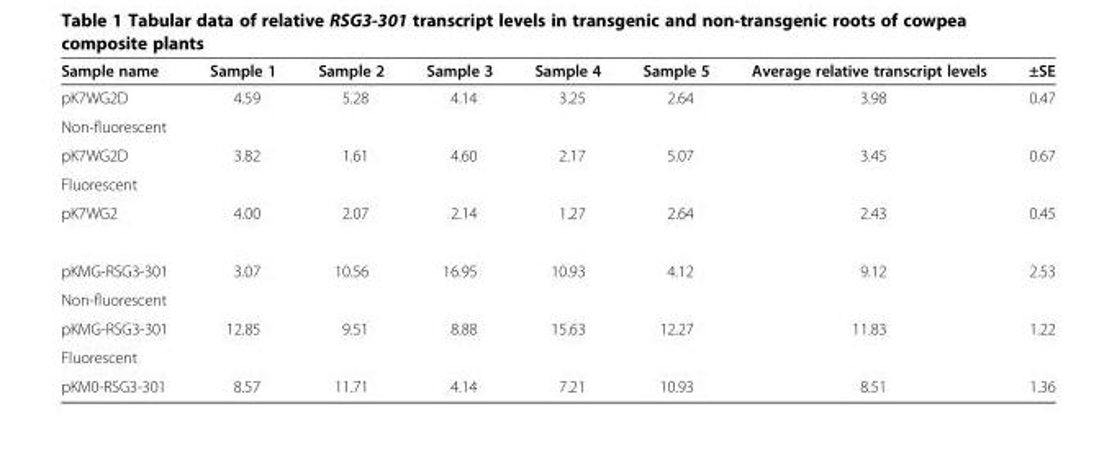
<table><thead><tr><td>Sample name</td><td>Sample 1</td><td>Sample 2</td><td>Sample 3</td><td>Sample 4</td><td>Sample 5</td><td>Average relative transcript levels</td><td>±SE</td></tr></thead><tbody><tr><td>pK7WG2D</td><td>4.59</td><td>5.28</td><td>4.14</td><td>3.25</td><td>2.64</td><td>3.98</td><td>0.47</td></tr><tr><td colspan="8">Non-fluorescent</td></tr><tr><td>pK7WG2D</td><td>3.82</td><td>1.61</td><td>4.60</td><td>2.17</td><td>5.07</td><td>3.45</td><td>0.67</td></tr><tr><td colspan="8">Fluorescent</td></tr><tr><td>pK7WG2</td><td>4.00</td><td>2.07</td><td>2.14</td><td>1.27</td><td>2.64</td><td>2.43</td><td>0.45</td></tr><tr><td>pKMG-RSG3-301</td><td>3.07</td><td>10.56</td><td>16.95</td><td>10.93</td><td>4.12</td><td>9.12</td><td>2.53</td></tr><tr><td colspan="8">Non-fluorescent</td></tr><tr><td>pKMG-RSG3-301</td><td>12.85</td><td>9.51</td><td>8.88</td><td>15.63</td><td>12.27</td><td>11.83</td><td>1.22</td></tr><tr><td colspan="8">Fluorescent</td></tr><tr><td>pKM0-RSG3-301</td><td>8.57</td><td>11.71</td><td>4.14</td><td>7.21</td><td>10.93</td><td>8.51</td><td>1.36</td></tr></tbody></table>